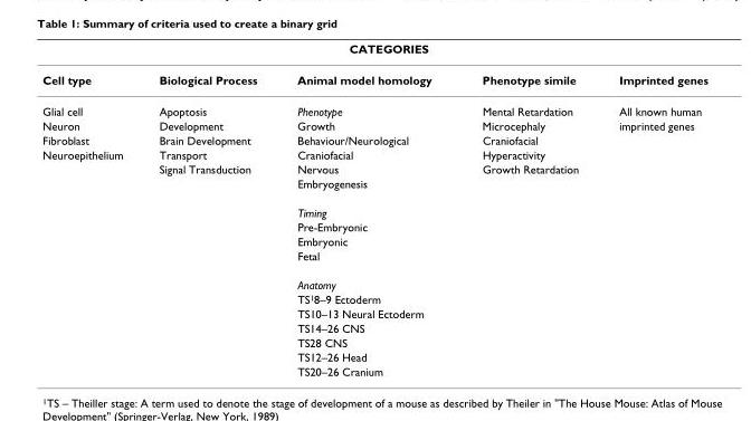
<table><thead><tr><td colspan="5">CATEGORIES</td></tr><tr><td>Cell type</td><td>Biological Process</td><td>Animal model homology</td><td>Phenotype simile</td><td>Imprinted genes</td></tr></thead><tbody><tr><td>Glial cell</td><td>Apoptosis</td><td>Phenotype</td><td>Mental Retardation</td><td>All known human</td></tr><tr><td>Neuron</td><td>Development</td><td>Growth</td><td>Microcephaly</td><td>imprinted genes</td></tr><tr><td>Fibroblast</td><td>Brain Development</td><td>Behaviour/Neurological</td><td>Craniofacial</td><td></td></tr><tr><td rowspan="14">Neuroepithelium</td><td>Transport</td><td>Craniofacial</td><td>Hyperactivity</td><td></td></tr><tr><td>Signal Transduction</td><td>Nervous</td><td>Growth Retardation</td><td></td></tr><tr><td></td><td>Embryogenesis</td><td></td><td></td></tr><tr><td></td><td>Timing</td><td></td><td></td></tr><tr><td></td><td>Pre-Embryonic</td><td></td><td></td></tr><tr><td></td><td>Embryonic</td><td></td><td></td></tr><tr><td></td><td>Fetal</td><td></td><td></td></tr><tr><td></td><td>Anatomy</td><td></td><td></td></tr><tr><td></td><td>TS<sup>1</sup>8–9 Ectoderm</td><td></td><td></td></tr><tr><td></td><td>TS10–13 Neural Ectoderm</td><td></td><td></td></tr><tr><td></td><td>TS14–26 CNS</td><td></td><td></td></tr><tr><td></td><td>TS28 CNS</td><td></td><td></td></tr><tr><td></td><td>TS12–26 Head</td><td></td><td></td></tr><tr><td></td><td>TS20–26 Cranium</td><td></td><td></td></tr></tbody></table>